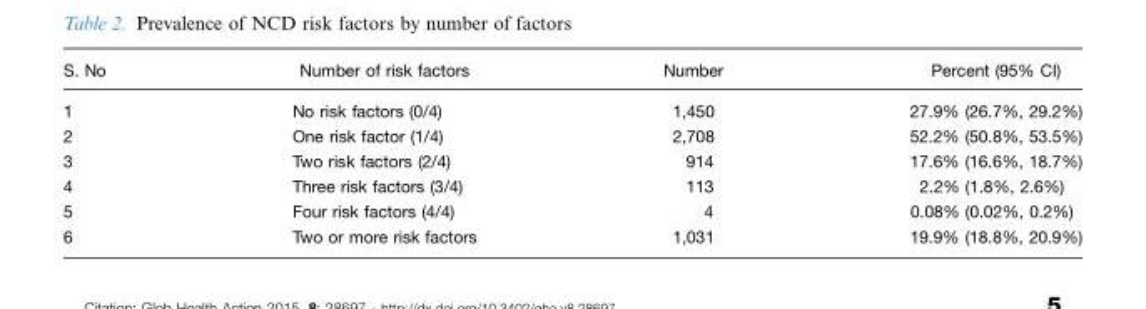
<table><thead><tr><td>S. No</td><td>Number of risk factors</td><td>Number</td><td>Percent (95% CI)</td></tr></thead><tbody><tr><td>1</td><td>No risk factors (0/4)</td><td>1,450</td><td>27.9% (26.7%, 29.2%)</td></tr><tr><td>2</td><td>One risk factor (1/4)</td><td>2,708</td><td>52.2% (50.8%, 53.5%)</td></tr><tr><td>3</td><td>Two risk factors (2/4)</td><td>914</td><td>17.6% (16.6%, 18.7%)</td></tr><tr><td>4</td><td>Three risk factors (3/4)</td><td>113</td><td>2.2% (1.8%, 2.6%)</td></tr><tr><td>5</td><td>Four risk factors (4/4)</td><td>4</td><td>0.08% (0.02%, 0.2%)</td></tr><tr><td>6</td><td>Two or more risk factors</td><td>1,031</td><td>19.9% (18.8%, 20.9%)</td></tr></tbody></table>